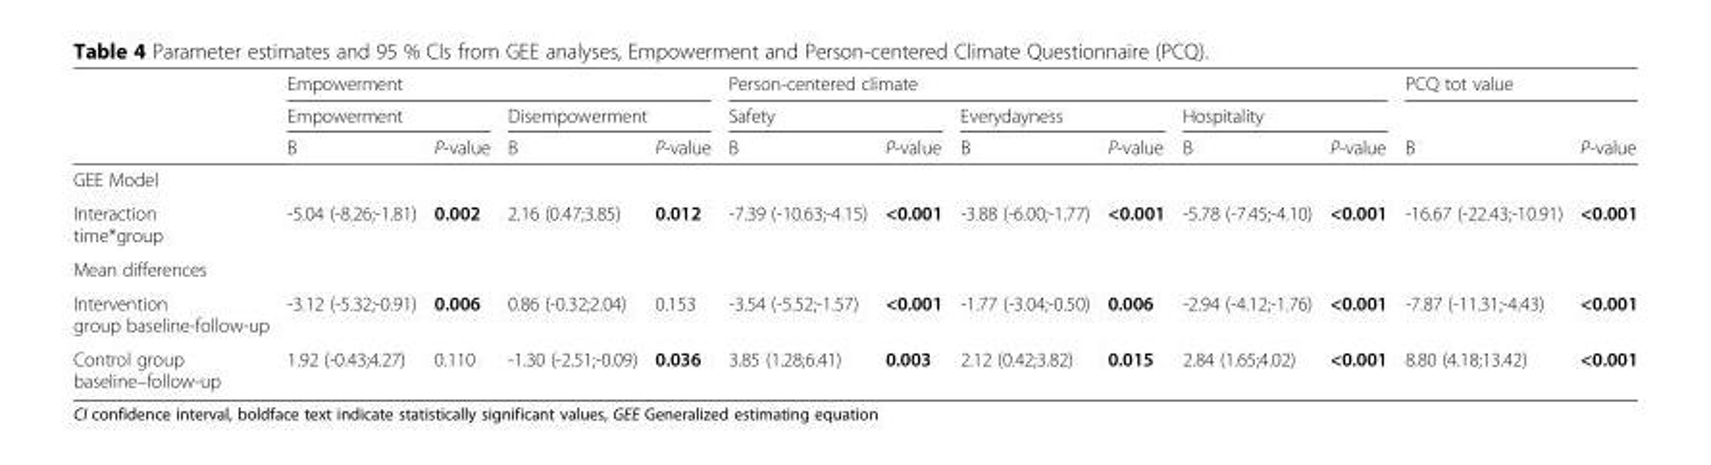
<table><thead><tr><td rowspan="3"></td><td colspan="4">Empowerment</td><td colspan="6">Person-centered climate</td><td colspan="2">PCQ tot value</td></tr><tr><td colspan="2">Empowerment</td><td colspan="2">Disempowerment</td><td colspan="2">Safety</td><td colspan="2">Everydayness</td><td colspan="2">Hospitality</td><td rowspan="2">B</td><td rowspan="2">P-value</td></tr><tr><td>B</td><td>P-value</td><td>B</td><td>P-value</td><td>B</td><td>P-value</td><td>B</td><td>P-value</td><td>B</td><td>P-value</td></tr></thead><tbody><tr><td colspan="13">GEE Model</td></tr><tr><td>Interaction time*group</td><td>-5.04 (-8.26;-1.81)</td><td>0.002</td><td>2.16 (0.47;3.85)</td><td>0.012</td><td>-7.39 (-10.63;-4.15)</td><td>&lt;0.001</td><td>-3.88 (-6.00;-1.77)</td><td>&lt;0.001</td><td>-5.78 (-7.45;-4.10)</td><td>&lt;0.001</td><td>-16.67 (-22.43;-10.91)</td><td>&lt;0.001</td></tr><tr><td colspan="13">Mean differences</td></tr><tr><td>Intervention group baseline-follow-up</td><td>-3.12 (-5.32;-0.91)</td><td>0.006</td><td>0.86 (-0.32;2.04)</td><td>0.153</td><td>-3.54 (-5.52;-1.57)</td><td>&lt;0.001</td><td>-1.77 (-3.04;-0.50)</td><td>0.006</td><td>-2.94 (-4.12;-1.76)</td><td>&lt;0.001</td><td>-7.87 (-11.31;-4.43)</td><td>&lt;0.001</td></tr><tr><td>Control group baseline–follow-up</td><td>1.92 (-0.43;4.27)</td><td>0.110</td><td>-1.30 (-2.51;-0.09)</td><td>0.036</td><td>3.85 (1.28;6.41)</td><td>0.003</td><td>2.12 (0.42;3.82)</td><td>0.015</td><td>2.84 (1.65;4.02)</td><td>&lt;0.001</td><td>8.80 (4.18;13.42)</td><td>&lt;0.001</td></tr></tbody></table>